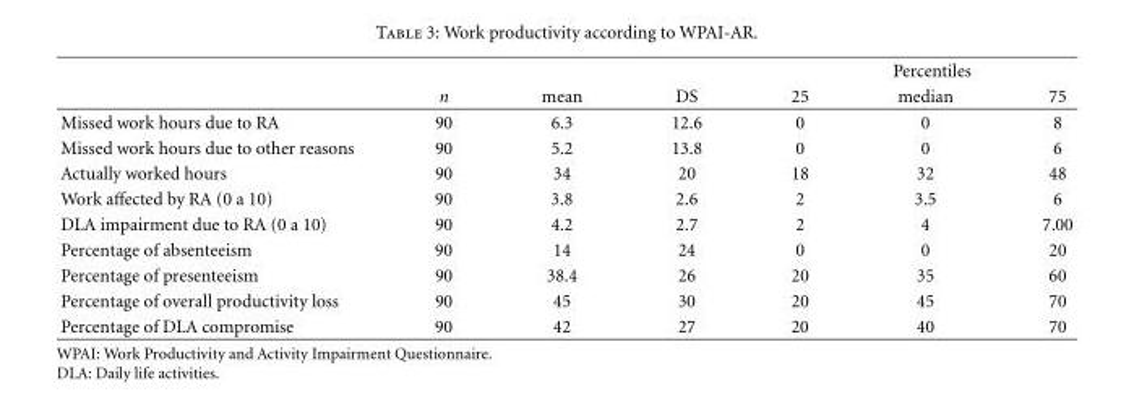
<table><thead><tr><td rowspan="2"></td><td rowspan="2">n</td><td rowspan="2">mean</td><td rowspan="2">DS</td><td colspan="3">Percentiles</td></tr><tr><td>25</td><td>median</td><td>75</td></tr></thead><tbody><tr><td>Missed work hours due to RA</td><td>90</td><td>6.3</td><td>12.6</td><td>0</td><td>0</td><td>8</td></tr><tr><td>Missed work hours due to other reasons</td><td>90</td><td>5.2</td><td>13.8</td><td>0</td><td>0</td><td>6</td></tr><tr><td>Actually worked hours</td><td>90</td><td>34</td><td>20</td><td>18</td><td>32</td><td>48</td></tr><tr><td>Work affected by RA (0 a 10)</td><td>90</td><td>3.8</td><td>2.6</td><td>2</td><td>3.5</td><td>6</td></tr><tr><td>DLA impairment due to RA (0 a 10)</td><td>90</td><td>4.2</td><td>2.7</td><td>2</td><td>4</td><td>7.00</td></tr><tr><td>Percentage of absenteeism</td><td>90</td><td>14</td><td>24</td><td>0</td><td>0</td><td>20</td></tr><tr><td>Percentage of presenteeism</td><td>90</td><td>38.4</td><td>26</td><td>20</td><td>35</td><td>60</td></tr><tr><td>Percentage of overall productivity loss</td><td>90</td><td>45</td><td>30</td><td>20</td><td>45</td><td>70</td></tr><tr><td>Percentage of DLA compromise</td><td>90</td><td>42</td><td>27</td><td>20</td><td>40</td><td>70</td></tr></tbody></table>